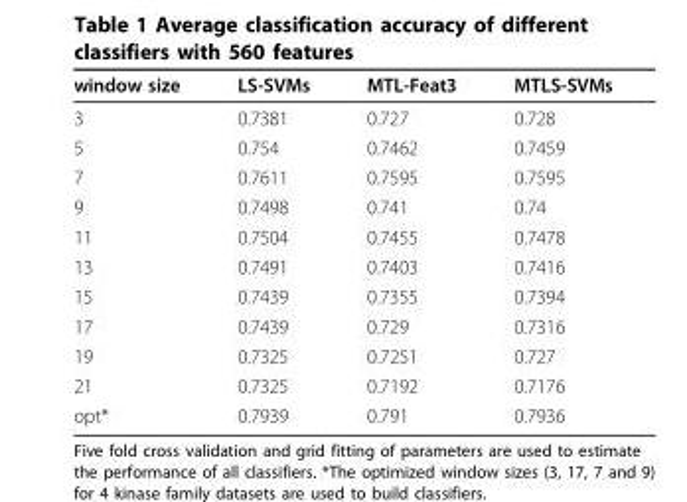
<table><thead><tr><td>window size</td><td>LS-SVMs</td><td>MTL-Feat3</td><td>MTLS-SVMs</td></tr></thead><tbody><tr><td>3</td><td>0.7381</td><td>0.727</td><td>0.728</td></tr><tr><td>5</td><td>0.754</td><td>0.7462</td><td>0.7459</td></tr><tr><td>7</td><td>0.7611</td><td>0.7595</td><td>0.7595</td></tr><tr><td>9</td><td>0.7498</td><td>0.741</td><td>0.74</td></tr><tr><td>11</td><td>0.7504</td><td>0.7455</td><td>0.7478</td></tr><tr><td>13</td><td>0.7491</td><td>0.7403</td><td>0.7416</td></tr><tr><td>15</td><td>0.7439</td><td>0.7355</td><td>0.7394</td></tr><tr><td>17</td><td>0.7439</td><td>0.729</td><td>0.7316</td></tr><tr><td>19</td><td>0.7325</td><td>0.7251</td><td>0.727</td></tr><tr><td>21</td><td>0.7325</td><td>0.7192</td><td>0.7176</td></tr><tr><td>opt*</td><td>0.7939</td><td>0.791</td><td>0.7936</td></tr></tbody></table>